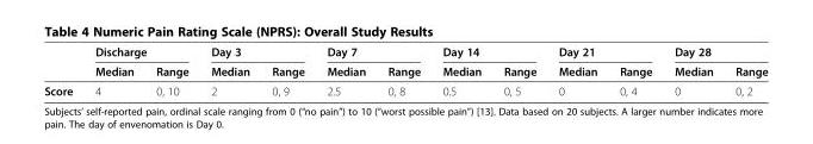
<table><thead><tr><td rowspan="2"></td><td colspan="2">Discharge</td><td colspan="2">Day 3</td><td colspan="2">Day 7</td><td colspan="2">Day 14</td><td colspan="2">Day 21</td><td colspan="2">Day 28</td></tr><tr><td>Median</td><td>Range</td><td>Median</td><td>Range</td><td>Median</td><td>Range</td><td>Median</td><td>Range</td><td>Median</td><td>Range</td><td>Median</td><td>Range</td></tr></thead><tbody><tr><td>Score</td><td>4</td><td>0, 10</td><td>2</td><td>0, 9</td><td>2.5</td><td>0, 8</td><td>0.5</td><td>0, 5</td><td>0</td><td>0, 4</td><td>0</td><td>0, 2</td></tr></tbody></table>